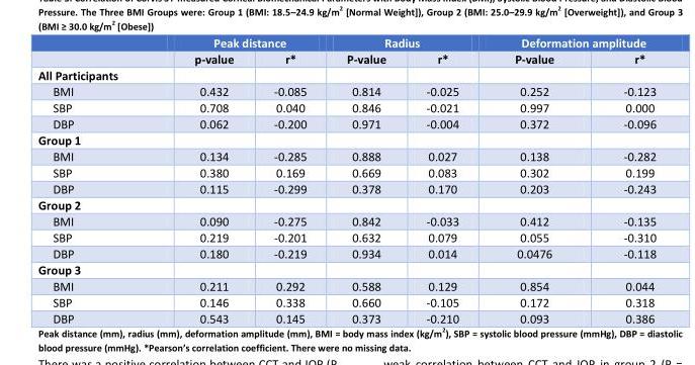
<table><thead><tr><td rowspan="2"></td><td colspan="2">Peak distance</td><td colspan="2">Radius</td><td colspan="2">Deformation amplitude</td></tr><tr><td>p-value</td><td>r*</td><td>P-value</td><td>r*</td><td>P-value</td><td>r*</td></tr></thead><tbody><tr><td colspan="7">All Participants</td></tr><tr><td>BMI</td><td>0.432</td><td>-0.085</td><td>0.814</td><td>-0.025</td><td>0.252</td><td>-0.123</td></tr><tr><td>SBP</td><td>0.708</td><td>0.040</td><td>0.846</td><td>-0.021</td><td>0.997</td><td>0.000</td></tr><tr><td>DBP</td><td>0.062</td><td>-0.200</td><td>0.971</td><td>-0.004</td><td>0.372</td><td>-0.096</td></tr><tr><td colspan="7">Group 1</td></tr><tr><td>BMI</td><td>0.134</td><td>-0.285</td><td>0.888</td><td>0.027</td><td>0.138</td><td>-0.282</td></tr><tr><td>SBP</td><td>0.380</td><td>0.169</td><td>0.669</td><td>0.083</td><td>0.302</td><td>0.199</td></tr><tr><td>DBP</td><td>0.115</td><td>-0.299</td><td>0.378</td><td>0.170</td><td>0.203</td><td>-0.243</td></tr><tr><td colspan="7">Group 2</td></tr><tr><td>BMI</td><td>0.090</td><td>-0.275</td><td>0.842</td><td>-0.033</td><td>0.412</td><td>-0.135</td></tr><tr><td>SBP</td><td>0.219</td><td>-0.201</td><td>0.632</td><td>0.079</td><td>0.055</td><td>-0.310</td></tr><tr><td>DBP</td><td>0.180</td><td>-0.219</td><td>0.934</td><td>0.014</td><td>0.0476</td><td>-0.118</td></tr><tr><td colspan="7">Group 3</td></tr><tr><td>BMI</td><td>0.211</td><td>0.292</td><td>0.588</td><td>0.129</td><td>0.854</td><td>0.044</td></tr><tr><td>SBP</td><td>0.146</td><td>0.338</td><td>0.660</td><td>-0.105</td><td>0.172</td><td>0.318</td></tr><tr><td>DBP</td><td>0.543</td><td>0.145</td><td>0.373</td><td>-0.210</td><td>0.093</td><td>0.386</td></tr></tbody></table>